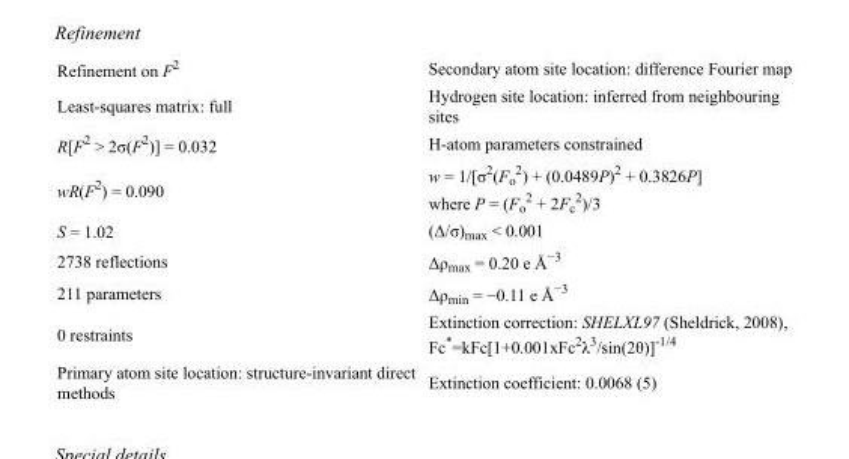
<table><tbody><tr><td>Refinement on F<sup>2</sup></td><td>Secondary atom site location: difference Fourier map</td></tr><tr><td>Least-squares matrix: full</td><td>Hydrogen site location: inferred from neighbouring sites</td></tr><tr><td>R[F<sup>2</sup> &gt; 2σ(F<sup>2</sup>)] = 0.032</td><td>H-atom parameters constrained</td></tr><tr><td>wR(F<sup>2</sup>) = 0.090</td><td>w = 1/[σ<sup>2</sup>(F<sub>o</sub> <sup>2</sup>) + (0.0489P)<sup>2</sup> + 0.3826P] where P = (F<sub>o</sub> <sup>2</sup> + 2F<sub>c</sub> <sup>2</sup>)/3</td></tr><tr><td>S = 1.02</td><td>(Δ/σ)<sub>max</sub> &lt; 0.001</td></tr><tr><td>2738 reflections</td><td>Δρ<sub>max</sub> = 0.20 e Å<sup>−3</sup></td></tr><tr><td>211 parameters</td><td>Δρ<sub>min</sub> = −0.11 e Å<sup>−3</sup></td></tr><tr><td>0 restraints</td><td>Extinction correction: SHELXL97 (Sheldrick, 2008), Fc*=kFc[1+0.001xFc<sup>2</sup>λ<sup>3</sup>/sin(2θ)]<sup>-1/4</sup></td></tr><tr><td>Primary atom site location: structure-invariant direct methods</td><td>Extinction coefficient: 0.0068 (5)</td></tr></tbody></table>